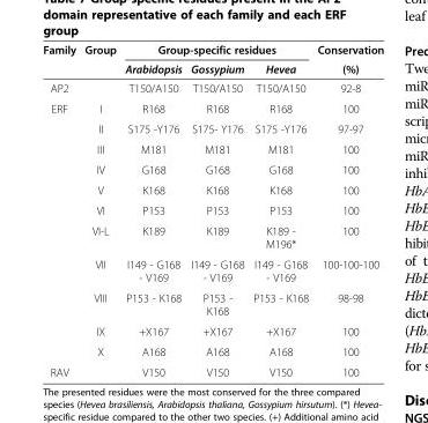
<table><thead><tr><td rowspan="2">Family</td><td rowspan="2">Group</td><td colspan="3">Group-specific residues</td><td rowspan="2">Conservation (%)</td></tr><tr><td>Arabidopsis</td><td>Gossypium</td><td>Hevea</td></tr></thead><tbody><tr><td>AP2</td><td></td><td>T150/A150</td><td>T150/A150</td><td>T150/A150</td><td>92-8</td></tr><tr><td rowspan="11">ERF</td><td>I</td><td>R168</td><td>R168</td><td>R168</td><td>100</td></tr><tr><td>II</td><td>S175 -Y176</td><td>S175- Y176</td><td>S175 -Y176</td><td>97-97</td></tr><tr><td>III</td><td>M181</td><td>M181</td><td>M181</td><td>100</td></tr><tr><td>IV</td><td>G168</td><td>G168</td><td>G168</td><td>100</td></tr><tr><td>V</td><td>K168</td><td>K168</td><td>K168</td><td>100</td></tr><tr><td>VI</td><td>P153</td><td>P153</td><td>P153</td><td>100</td></tr><tr><td>VI-L</td><td>K189</td><td>K189</td><td>K189 - M196*</td><td>100</td></tr><tr><td>VII</td><td>I149 - G168 - V169</td><td>I149 - G168 - V169</td><td>I149 - G168 - V169</td><td>100-100-100</td></tr><tr><td>VIII</td><td>P153 - K168</td><td>P153 - K168</td><td>P153 - K168</td><td>98-98</td></tr><tr><td>IX</td><td>+X167</td><td>+X167</td><td>+X167</td><td>100</td></tr><tr><td>X</td><td>A168</td><td>A168</td><td>A168</td><td>100</td></tr><tr><td>RAV</td><td></td><td>V150</td><td>V150</td><td>V150</td><td>100</td></tr></tbody></table>